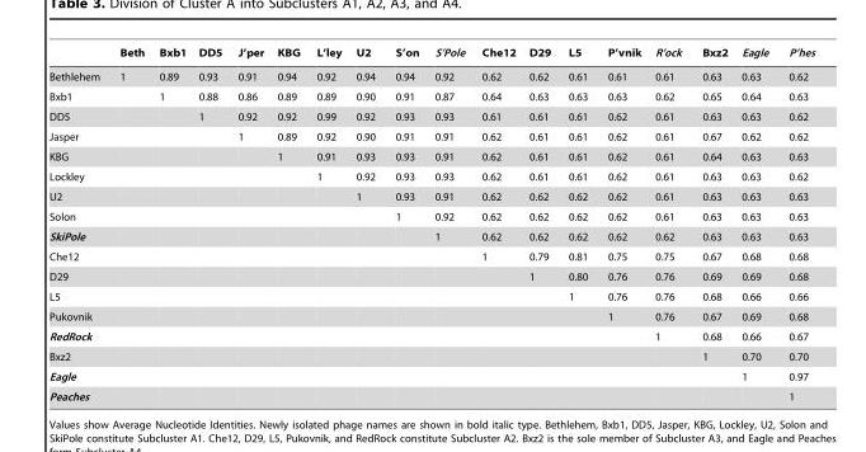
<table><thead><tr><td></td><td>Beth</td><td>Bxb1</td><td>DD5</td><td>J’per</td><td>KBG</td><td>L’ley</td><td>U2</td><td>S’on</td><td>S’Pole</td><td>Che12</td><td>D29</td><td>L5</td><td>P’vnik</td><td>R’ock</td><td>Bxz2</td><td>Eagle</td><td>P’hes</td></tr></thead><tbody><tr><td>Bethlehem</td><td>1</td><td>0.89</td><td>0.93</td><td>0.91</td><td>0.94</td><td>0.92</td><td>0.94</td><td>0.94</td><td>0.92</td><td>0.62</td><td>0.62</td><td>0.61</td><td>0.61</td><td>0.61</td><td>0.63</td><td>0.63</td><td>0.62</td></tr><tr><td>Bxb1</td><td></td><td>1</td><td>0.88</td><td>0.86</td><td>0.89</td><td>0.89</td><td>0.90</td><td>0.91</td><td>0.87</td><td>0.64</td><td>0.63</td><td>0.63</td><td>0.63</td><td>0.62</td><td>0.65</td><td>0.64</td><td>0.63</td></tr><tr><td>DD5</td><td></td><td></td><td>1</td><td>0.92</td><td>0.92</td><td>0.99</td><td>0.92</td><td>0.93</td><td>0.93</td><td>0.61</td><td>0.61</td><td>0.61</td><td>0.62</td><td>0.61</td><td>0.63</td><td>0.63</td><td>0.62</td></tr><tr><td>Jasper</td><td></td><td></td><td></td><td>1</td><td>0.89</td><td>0.92</td><td>0.90</td><td>0.91</td><td>0.91</td><td>0.62</td><td>0.61</td><td>0.61</td><td>0.62</td><td>0.61</td><td>0.67</td><td>0.62</td><td>0.62</td></tr><tr><td>KBG</td><td></td><td></td><td></td><td></td><td>1</td><td>0.91</td><td>0.93</td><td>0.93</td><td>0.91</td><td>0.62</td><td>0.61</td><td>0.61</td><td>0.62</td><td>0.61</td><td>0.64</td><td>0.63</td><td>0.63</td></tr><tr><td>Lockley</td><td></td><td></td><td></td><td></td><td></td><td>1</td><td>0.92</td><td>0.93</td><td>0.93</td><td>0.62</td><td>0.61</td><td>0.61</td><td>0.62</td><td>0.61</td><td>0.63</td><td>0.63</td><td>0.62</td></tr><tr><td>U2</td><td></td><td></td><td></td><td></td><td></td><td></td><td>1</td><td>0.93</td><td>0.91</td><td>0.62</td><td>0.62</td><td>0.62</td><td>0.62</td><td>0.61</td><td>0.63</td><td>0.63</td><td>0.63</td></tr><tr><td>Solon</td><td></td><td></td><td></td><td></td><td></td><td></td><td></td><td>1</td><td>0.92</td><td>0.62</td><td>0.62</td><td>0.62</td><td>0.62</td><td>0.61</td><td>0.63</td><td>0.63</td><td>0.63</td></tr><tr><td>SkiPole</td><td></td><td></td><td></td><td></td><td></td><td></td><td></td><td></td><td>1</td><td>0.62</td><td>0.62</td><td>0.62</td><td>0.62</td><td>0.62</td><td>0.63</td><td>0.63</td><td>0.63</td></tr><tr><td>Che12</td><td></td><td></td><td></td><td></td><td></td><td></td><td></td><td></td><td></td><td>1</td><td>0.79</td><td>0.81</td><td>0.75</td><td>0.75</td><td>0.67</td><td>0.68</td><td>0.68</td></tr><tr><td>D29</td><td></td><td></td><td></td><td></td><td></td><td></td><td></td><td></td><td></td><td></td><td>1</td><td>0.80</td><td>0.76</td><td>0.76</td><td>0.69</td><td>0.69</td><td>0.68</td></tr><tr><td>L5</td><td></td><td></td><td></td><td></td><td></td><td></td><td></td><td></td><td></td><td></td><td></td><td>1</td><td>0.76</td><td>0.76</td><td>0.68</td><td>0.66</td><td>0.66</td></tr><tr><td>Pukovnik</td><td></td><td></td><td></td><td></td><td></td><td></td><td></td><td></td><td></td><td></td><td></td><td></td><td>1</td><td>0.76</td><td>0.67</td><td>0.69</td><td>0.68</td></tr><tr><td>RedRock</td><td></td><td></td><td></td><td></td><td></td><td></td><td></td><td></td><td></td><td></td><td></td><td></td><td></td><td>1</td><td>0.68</td><td>0.66</td><td>0.67</td></tr><tr><td>Bxz2</td><td></td><td></td><td></td><td></td><td></td><td></td><td></td><td></td><td></td><td></td><td></td><td></td><td></td><td></td><td>1</td><td>0.70</td><td>0.70</td></tr><tr><td>Eagle</td><td></td><td></td><td></td><td></td><td></td><td></td><td></td><td></td><td></td><td></td><td></td><td></td><td></td><td></td><td></td><td>1</td><td>0.97</td></tr><tr><td>Peaches</td><td></td><td></td><td></td><td></td><td></td><td></td><td></td><td></td><td></td><td></td><td></td><td></td><td></td><td></td><td></td><td></td><td>1</td></tr></tbody></table>